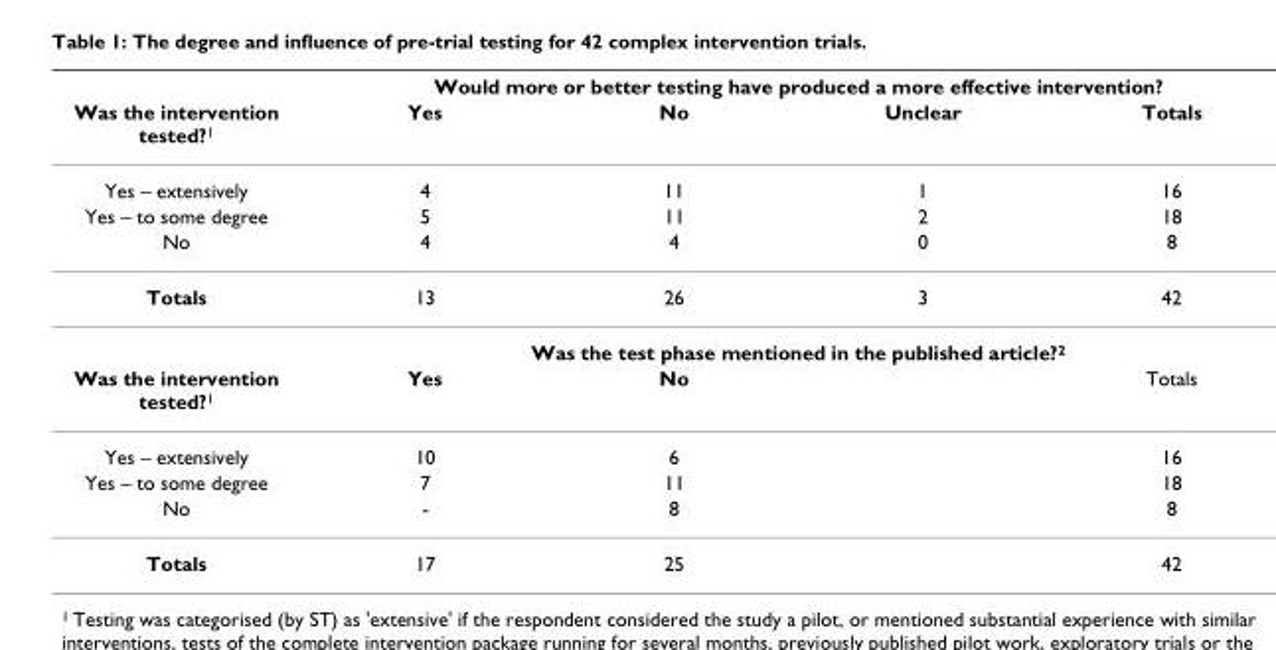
<table><thead><tr><td rowspan="2">Was the intervention tested?<sup>1</sup></td><td colspan="4">Would more or better testing have produced a more effective intervention?</td></tr><tr><td>Yes</td><td>No</td><td>Unclear</td><td>Totals</td></tr></thead><tbody><tr><td>Yes – extensively</td><td>4</td><td>11</td><td>1</td><td>16</td></tr><tr><td>Yes – to some degree</td><td>5</td><td>11</td><td>2</td><td>18</td></tr><tr><td>No</td><td>4</td><td>4</td><td>0</td><td>8</td></tr><tr><td rowspan="2">Totals</td><td>13</td><td>26</td><td>3</td><td>42</td></tr><tr><td colspan="4">Was the test phase mentioned in the published article?<sup>2</sup></td></tr><tr><td>Was the intervention tested?<sup>1</sup></td><td>Yes</td><td>No</td><td></td><td>Totals</td></tr><tr><td>Yes – extensively</td><td>10</td><td>6</td><td></td><td>16</td></tr><tr><td>Yes – to some degree</td><td>7</td><td>11</td><td></td><td>18</td></tr><tr><td>No</td><td>-</td><td>8</td><td></td><td>8</td></tr><tr><td>Totals</td><td>17</td><td>25</td><td></td><td>42</td></tr></tbody></table>